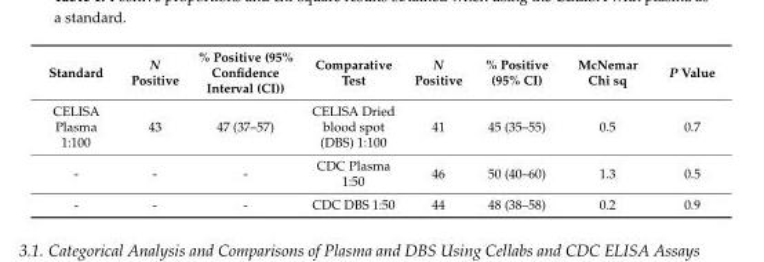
<table><thead><tr><td>Standard</td><td>N Positive</td><td>% Positive (95% Confidence Interval (CI))</td><td>Comparative Test</td><td>N Positive</td><td>% Positive (95% CI)</td><td>McNemar Chi sq</td><td>P Value</td></tr></thead><tbody><tr><td>CELISA Plasma 1:100</td><td>43</td><td>47 (37–57)</td><td>CELISA Dried blood spot (DBS) 1:100</td><td>41</td><td>45 (35–55)</td><td>0.5</td><td>0.7</td></tr><tr><td>-</td><td>-</td><td>-</td><td>CDC Plasma 1:50</td><td>46</td><td>50 (40–60)</td><td>1.3</td><td>0.5</td></tr><tr><td>-</td><td>-</td><td>-</td><td>CDC DBS 1:50</td><td>44</td><td>48 (38–58)</td><td>0.2</td><td>0.9</td></tr></tbody></table>